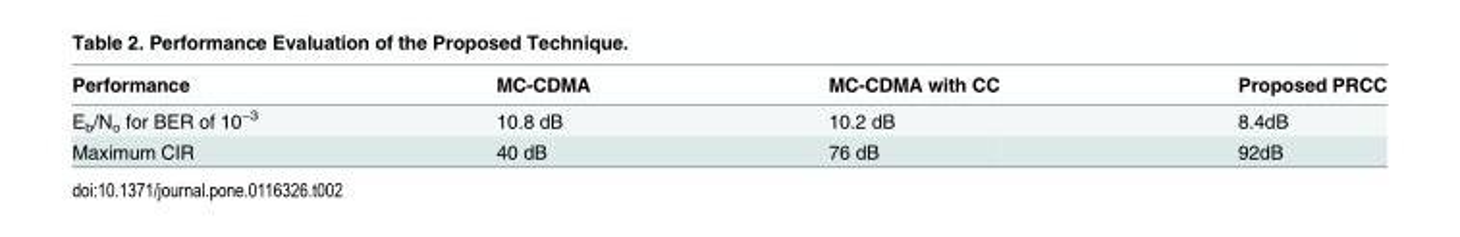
<table><thead><tr><td>Performance</td><td>MC-CDMA</td><td>MC-CDMA with CC</td><td>Proposed PRCC</td></tr></thead><tbody><tr><td>E<sub>b</sub>/N<sub>o</sub> for BER of 10<sup>−3</sup></td><td>10.8 dB</td><td>10.2 dB</td><td>8.4dB</td></tr><tr><td>Maximum CIR</td><td>40 dB</td><td>76 dB</td><td>92dB</td></tr></tbody></table>